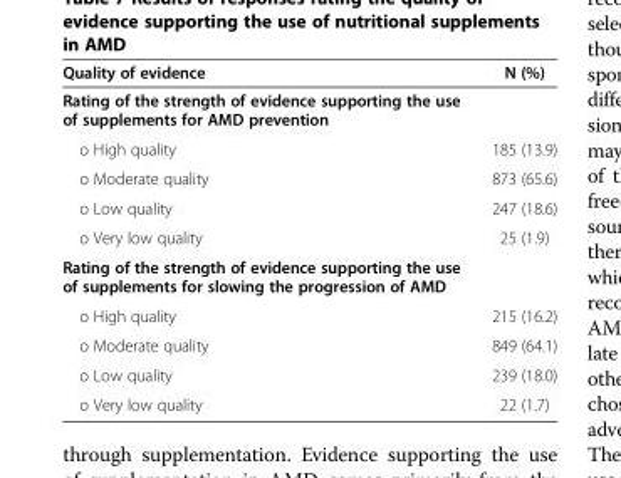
<table><thead><tr><td>Quality of evidence</td><td>N (%)</td></tr></thead><tbody><tr><td colspan="2">Rating of the strength of evidence supporting the use of supplements for AMD prevention</td></tr><tr><td>o High quality</td><td>185 (13.9)</td></tr><tr><td>o Moderate quality</td><td>873 (65.6)</td></tr><tr><td>o Low quality</td><td>247 (18.6)</td></tr><tr><td>o Very low quality</td><td>25 (1.9)</td></tr><tr><td colspan="2">Rating of the strength of evidence supporting the use of supplements for slowing the progression of AMD</td></tr><tr><td>o High quality</td><td>215 (16.2)</td></tr><tr><td>o Moderate quality</td><td>849 (64.1)</td></tr><tr><td>o Low quality</td><td>239 (18.0)</td></tr><tr><td>o Very low quality</td><td>22 (1.7)</td></tr></tbody></table>